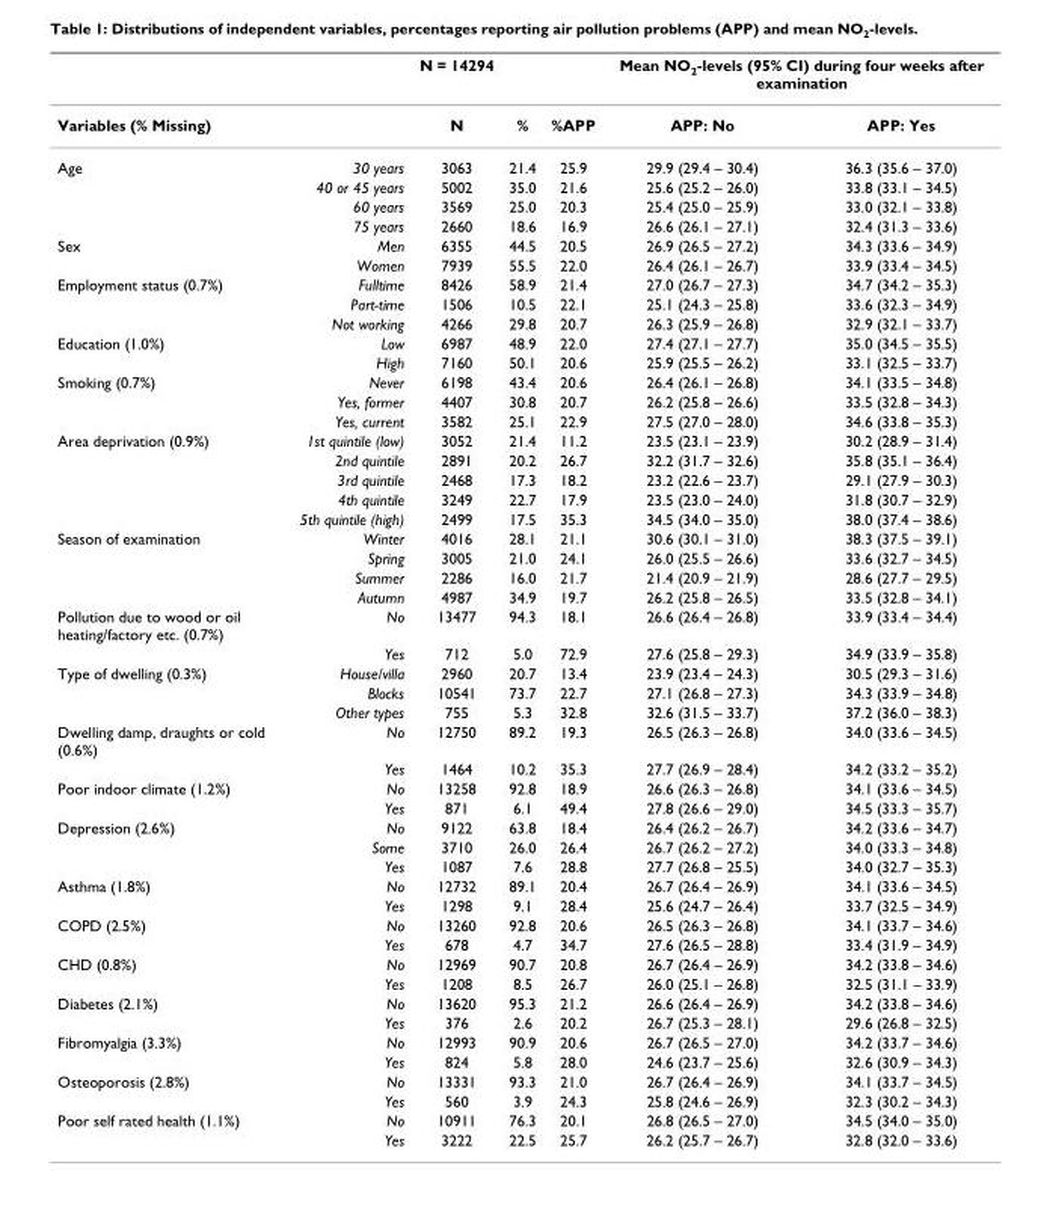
<table><thead><tr><td rowspan="2">Variables (% Missing)</td><td rowspan="2"></td><td rowspan="2">N = 14294 N</td><td rowspan="2">%</td><td rowspan="2">%APP</td><td colspan="2">Mean NO2-levels (95% CI) during four weeks after examination</td></tr><tr><td>APP: No</td><td>APP: Yes</td></tr></thead><tbody><tr><td rowspan="4">Age</td><td>30 years</td><td>3063</td><td>21.4</td><td>25.9</td><td>29.9 (29.4 – 30.4)</td><td>36.3 (35.6 – 37.0)</td></tr><tr><td>40 or 45 years</td><td>5002</td><td>35.0</td><td>21.6</td><td>25.6 (25.2 – 26.0)</td><td>33.8 (33.1 – 34.5)</td></tr><tr><td>60 years</td><td>3569</td><td>25.0</td><td>20.3</td><td>25.4 (25.0 – 25.9)</td><td>33.0 (32.1 – 33.8)</td></tr><tr><td>75 years</td><td>2660</td><td>18.6</td><td>16.9</td><td>26.6 (26.1 – 27.1)</td><td>32.4 (31.3 – 33.6)</td></tr><tr><td rowspan="2">Sex</td><td>Men</td><td>6355</td><td>44.5</td><td>20.5</td><td>26.9 (26.5 – 27.2)</td><td>34.3 (33.6 – 34.9)</td></tr><tr><td>Women</td><td>7939</td><td>55.5</td><td>22.0</td><td>26.4 (26.1 – 26.7)</td><td>33.9 (33.4 – 34.5)</td></tr><tr><td rowspan="3">Employment status (0.7%)</td><td>Fulltime</td><td>8426</td><td>58.9</td><td>21.4</td><td>27.0 (26.7 – 27.3)</td><td>34.7 (34.2 – 35.3)</td></tr><tr><td>Part-time</td><td>1506</td><td>10.5</td><td>22.1</td><td>25.1 (24.3 – 25.8)</td><td>33.6 (32.3 – 34.9)</td></tr><tr><td>Not working</td><td>4266</td><td>29.8</td><td>20.7</td><td>26.3 (25.9 – 26.8)</td><td>32.9 (32.1 – 33.7)</td></tr><tr><td rowspan="2">Education (1.0%)</td><td>Low</td><td>6987</td><td>48.9</td><td>22.0</td><td>27.4 (27.1 – 27.7)</td><td>35.0 (34.5 – 35.5)</td></tr><tr><td>High</td><td>7160</td><td>50.1</td><td>20.6</td><td>25.9 (25.5 – 26.2)</td><td>33.1 (32.5 – 33.7)</td></tr><tr><td rowspan="3">Smoking (0.7%)</td><td>Never</td><td>6198</td><td>43.4</td><td>20.6</td><td>26.4 (26.1 – 26.8)</td><td>34.1 (33.5 – 34.8)</td></tr><tr><td>Yes, former</td><td>4407</td><td>30.8</td><td>20.7</td><td>26.2 (25.8 – 26.6)</td><td>33.5 (32.8 – 34.3)</td></tr><tr><td>Yes, current</td><td>3582</td><td>25.1</td><td>22.9</td><td>27.5 (27.0 – 28.0)</td><td>34.6 (33.8 – 35.3)</td></tr><tr><td rowspan="5">Area deprivation (0.9%)</td><td>1st quintile (low)</td><td>3052</td><td>21.4</td><td>11.2</td><td>23.5 (23.1 – 23.9)</td><td>30.2 (28.9 – 31.4)</td></tr><tr><td>2nd quintile</td><td>2891</td><td>20.2</td><td>26.7</td><td>32.2 (31.7 – 32.6)</td><td>35.8 (35.1 – 36.4)</td></tr><tr><td>3rd quintile</td><td>2468</td><td>17.3</td><td>18.2</td><td>23.2 (22.6 – 23.7)</td><td>29.1 (27.9 – 30.3)</td></tr><tr><td>4th quintile</td><td>3249</td><td>22.7</td><td>17.9</td><td>23.5 (23.0 – 24.0)</td><td>31.8 (30.7 – 32.9)</td></tr><tr><td>5th quintile (high)</td><td>2499</td><td>17.5</td><td>35.3</td><td>34.5 (34.0 – 35.0)</td><td>38.0 (37.4 – 38.6)</td></tr><tr><td rowspan="4">Season of examination</td><td>Winter</td><td>4016</td><td>28.1</td><td>21.1</td><td>30.6 (30.1 – 31.0)</td><td>38.3 (37.5 – 39.1)</td></tr><tr><td>Spring</td><td>3005</td><td>21.0</td><td>24.1</td><td>26.0 (25.5 – 26.6)</td><td>33.6 (32.7 – 34.5)</td></tr><tr><td>Summer</td><td>2286</td><td>16.0</td><td>21.7</td><td>21.4 (20.9 – 21.9)</td><td>28.6 (27.7 – 29.5)</td></tr><tr><td>Autumn</td><td>4987</td><td>34.9</td><td>19.7</td><td>26.2 (25.8 – 26.5)</td><td>33.5 (32.8 – 34.1)</td></tr><tr><td rowspan="2">Pollution due to wood or oil heating/factory etc. (0.7%)</td><td>No</td><td>13477</td><td>94.3</td><td>18.1</td><td>26.6 (26.4 – 26.8)</td><td>33.9 (33.4 – 34.4)</td></tr><tr><td>Yes</td><td>712</td><td>5.0</td><td>72.9</td><td>27.6 (25.8 – 29.3)</td><td>34.9 (33.9 – 35.8)</td></tr><tr><td rowspan="3">Type of dwelling (0.3%)</td><td>House/villa</td><td>2960</td><td>20.7</td><td>13.4</td><td>23.9 (23.4 – 24.3)</td><td>30.5 (29.3 – 31.6)</td></tr><tr><td>Blocks</td><td>10541</td><td>73.7</td><td>22.7</td><td>27.1 (26.8 – 27.3)</td><td>34.3 (33.9 – 34.8)</td></tr><tr><td>Other types</td><td>755</td><td>5.3</td><td>32.8</td><td>32.6 (31.5 – 33.7)</td><td>37.2 (36.0 – 38.3)</td></tr><tr><td rowspan="2">Dwelling damp, draughts or cold (0.6%)</td><td>No</td><td>12750</td><td>89.2</td><td>19.3</td><td>26.5 (26.3 – 26.8)</td><td>34.0 (33.6 – 34.5)</td></tr><tr><td>Yes</td><td>1464</td><td>10.2</td><td>35.3</td><td>27.7 (26.9 – 28.4)</td><td>34.2 (33.2 – 35.2)</td></tr><tr><td rowspan="2">Poor indoor climate (1.2%)</td><td>No</td><td>13258</td><td>92.8</td><td>18.9</td><td>26.6 (26.3 – 26.8)</td><td>34.1 (33.6 – 34.5)</td></tr><tr><td>Yes</td><td>871</td><td>6.1</td><td>49.4</td><td>27.8 (26.6 – 29.0)</td><td>34.5 (33.3 – 35.7)</td></tr><tr><td rowspan="3">Depression (2.6%)</td><td>No</td><td>9122</td><td>63.8</td><td>18.4</td><td>26.4 (26.2 – 26.7)</td><td>34.2 (33.6 – 34.7)</td></tr><tr><td>Some</td><td>3710</td><td>26.0</td><td>26.4</td><td>26.7 (26.2 – 27.2)</td><td>34.0 (33.3 – 34.8)</td></tr><tr><td>Yes</td><td>1087</td><td>7.6</td><td>28.8</td><td>27.7 (26.8 – 25.5)</td><td>34.0 (32.7 – 35.3)</td></tr><tr><td rowspan="2">Asthma (1.8%)</td><td>No</td><td>12732</td><td>89.1</td><td>20.4</td><td>26.7 (26.4 – 26.9)</td><td>34.1 (33.6 – 34.5)</td></tr><tr><td>Yes</td><td>1298</td><td>9.1</td><td>28.4</td><td>25.6 (24.7 – 26.4)</td><td>33.7 (32.5 – 34.9)</td></tr><tr><td rowspan="2">COPD (2.5%)</td><td>No</td><td>13260</td><td>92.8</td><td>20.6</td><td>26.5 (26.3 – 26.8)</td><td>34.1 (33.7 – 34.6)</td></tr><tr><td>Yes</td><td>678</td><td>4.7</td><td>34.7</td><td>27.6 (26.5 – 28.8)</td><td>33.4 (31.9 – 34.9)</td></tr><tr><td rowspan="2">CHD (0.8%)</td><td>No</td><td>12969</td><td>90.7</td><td>20.8</td><td>26.7 (26.4 – 26.9)</td><td>34.2 (33.8 – 34.6)</td></tr><tr><td>Yes</td><td>1208</td><td>8.5</td><td>26.7</td><td>26.0 (25.1 – 26.8)</td><td>32.5 (31.1 – 33.9)</td></tr><tr><td rowspan="2">Diabetes (2.1%)</td><td>No</td><td>13620</td><td>95.3</td><td>21.2</td><td>26.6 (26.4 – 26.9)</td><td>34.2 (33.8 – 34.6)</td></tr><tr><td>Yes</td><td>376</td><td>2.6</td><td>20.2</td><td>26.7 (25.3 – 28.1)</td><td>29.6 (26.8 – 32.5)</td></tr><tr><td rowspan="2">Fibromyalgia (3.3%)</td><td>No</td><td>12993</td><td>90.9</td><td>20.6</td><td>26.7 (26.5 – 27.0)</td><td>34.2 (33.7 – 34.6)</td></tr><tr><td>Yes</td><td>824</td><td>5.8</td><td>28.0</td><td>24.6 (23.7 – 25.6)</td><td>32.6 (30.9 – 34.3)</td></tr><tr><td rowspan="2">Osteoporosis (2.8%)</td><td>No</td><td>13331</td><td>93.3</td><td>21.0</td><td>26.7 (26.4 – 26.9)</td><td>34.1 (33.7 – 34.5)</td></tr><tr><td>Yes</td><td>560</td><td>3.9</td><td>24.3</td><td>25.8 (24.6 – 26.9)</td><td>32.3 (30.2 – 34.3)</td></tr><tr><td rowspan="2">Poor self rated health (1.1%)</td><td>No</td><td>10911</td><td>76.3</td><td>20.1</td><td>26.8 (26.5 – 27.0)</td><td>34.5 (34.0 – 35.0)</td></tr><tr><td>Yes</td><td>3222</td><td>22.5</td><td>25.7</td><td>26.2 (25.7 – 26.7)</td><td>32.8 (32.0 – 33.6)</td></tr></tbody></table>